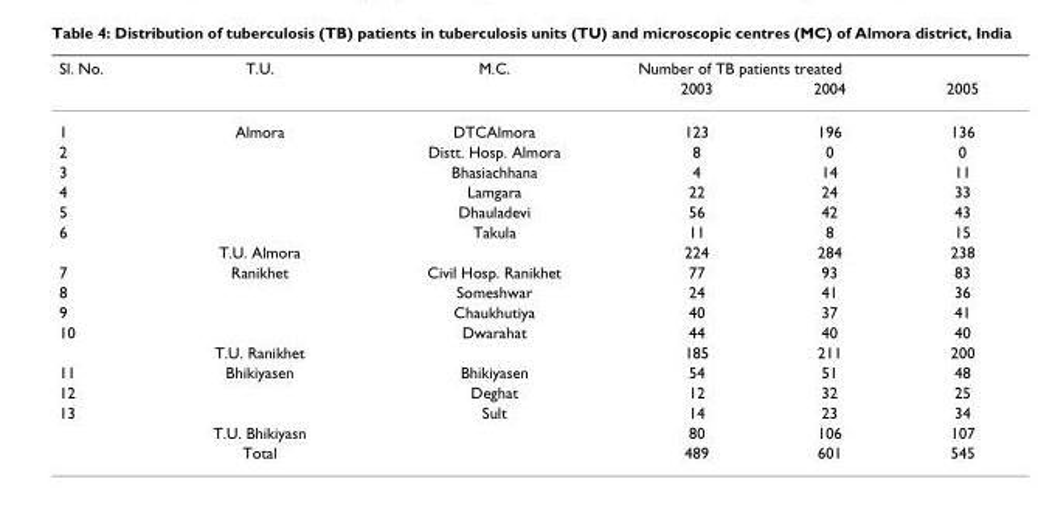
<table><thead><tr><td rowspan="2">Sl. No.</td><td rowspan="2">T.U.</td><td rowspan="2">M.C.</td><td colspan="3">Number of TB patients treated</td></tr><tr><td>2003</td><td>2004</td><td>2005</td></tr></thead><tbody><tr><td>1</td><td>Almora</td><td>DTCAlmora</td><td>123</td><td>196</td><td>136</td></tr><tr><td>2</td><td></td><td>Distt. Hosp. Almora</td><td>8</td><td>0</td><td>0</td></tr><tr><td>3</td><td></td><td>Bhasiachhana</td><td>4</td><td>14</td><td>11</td></tr><tr><td>4</td><td></td><td>Lamgara</td><td>22</td><td>24</td><td>33</td></tr><tr><td>5</td><td></td><td>Dhauladevi</td><td>56</td><td>42</td><td>43</td></tr><tr><td rowspan="2">6</td><td></td><td>Takula</td><td>11</td><td>8</td><td>15</td></tr><tr><td>T.U. Almora</td><td></td><td>224</td><td>284</td><td>238</td></tr><tr><td>7</td><td>Ranikhet</td><td>Civil Hosp. Ranikhet</td><td>77</td><td>93</td><td>83</td></tr><tr><td>8</td><td></td><td>Someshwar</td><td>24</td><td>41</td><td>36</td></tr><tr><td>9</td><td></td><td>Chaukhutiya</td><td>40</td><td>37</td><td>41</td></tr><tr><td rowspan="2">10</td><td></td><td>Dwarahat</td><td>44</td><td>40</td><td>40</td></tr><tr><td>T.U. Ranikhet</td><td></td><td>185</td><td>211</td><td>200</td></tr><tr><td>11</td><td>Bhikiyasen</td><td>Bhikiyasen</td><td>54</td><td>51</td><td>48</td></tr><tr><td>12</td><td></td><td>Deghat</td><td>12</td><td>32</td><td>25</td></tr><tr><td rowspan="3">13</td><td></td><td>Sult</td><td>14</td><td>23</td><td>34</td></tr><tr><td>T.U. Bhikiyasn</td><td></td><td>80</td><td>106</td><td>107</td></tr><tr><td>Total</td><td></td><td>489</td><td>601</td><td>545</td></tr></tbody></table>